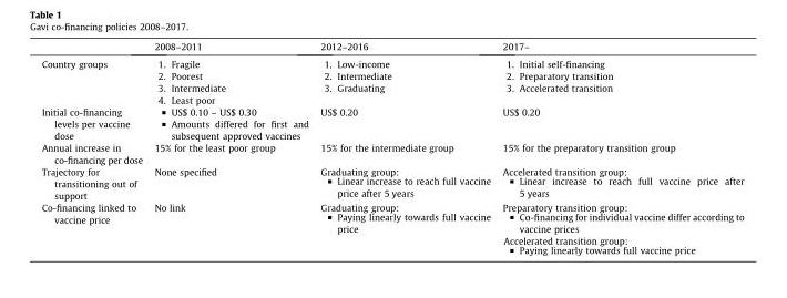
<table><thead><tr><td></td><td>2008–2011</td><td>2012–2016</td><td>2017–</td></tr></thead><tbody><tr><td>Country groups</td><td>1. Fragile 2. Poorest 3. Intermediate 4. Least poor</td><td>1. Low-income 2. Intermediate 3. Graduating</td><td>1. Initial self-financing 2. Preparatory transition 3. Accelerated transition</td></tr><tr><td>Initial co-financing levels per vaccine dose</td><td>▪ US$ 0.10 – US$ 0.30 ▪ Amounts differed for first and subsequent approved vaccines</td><td>US$ 0.20</td><td>US$ 0.20</td></tr><tr><td>Annual increase in co-financing per dose</td><td>15% for the least poor group</td><td>15% for the intermediate group</td><td>15% for the preparatory transition group</td></tr><tr><td>Trajectory for transitioning out of support</td><td>None specified</td><td>Graduating group: ▪ Linear increase to reach full vaccine price after 5 years</td><td>Accelerated transition group: ▪ Linear increase to reach full vaccine price after 5 years</td></tr><tr><td>Co-financing linked to vaccine price</td><td>No link</td><td>Graduating group: ▪ Paying linearly towards full vaccine price</td><td>Preparatory transition group: ▪ Co-financing for individual vaccine differ according to vaccine prices Accelerated transition group: ▪ Paying linearly towards full vaccine price</td></tr></tbody></table>